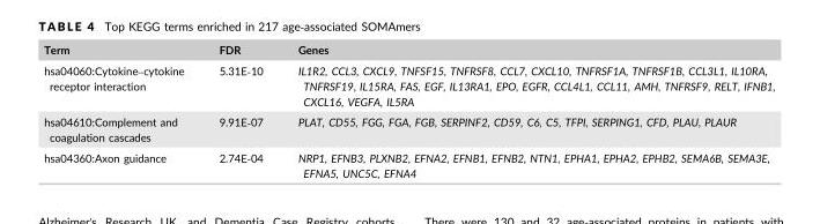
<table><thead><tr><td>Term</td><td>FDR</td><td>Genes</td></tr></thead><tbody><tr><td>hsa04060:Cytokine–cytokine receptor interaction</td><td>5.31E‐10</td><td>IL1R2, CCL3, CXCL9, TNFSF15, TNFRSF8, CCL7, CXCL10, TNFRSF1A, TNFRSF1B, CCL3L1, IL10RA, TNFRSF19, IL15RA, FAS, EGF, IL13RA1, EPO, EGFR, CCL4L1, CCL11, AMH, TNFRSF9, RELT, IFNB1, CXCL16, VEGFA, IL5RA</td></tr><tr><td>hsa04610:Complement and coagulation cascades</td><td>9.91E‐07</td><td>PLAT, CD55, FGG, FGA, FGB, SERPINF2, CD59, C6, C5, TFPI, SERPING1, CFD, PLAU, PLAUR</td></tr><tr><td>hsa04360:Axon guidance</td><td>2.74E‐04</td><td>NRP1, EFNB3, PLXNB2, EFNA2, EFNB1, EFNB2, NTN1, EPHA1, EPHA2, EPHB2, SEMA6B, SEMA3E, EFNA5, UNC5C, EFNA4</td></tr></tbody></table>